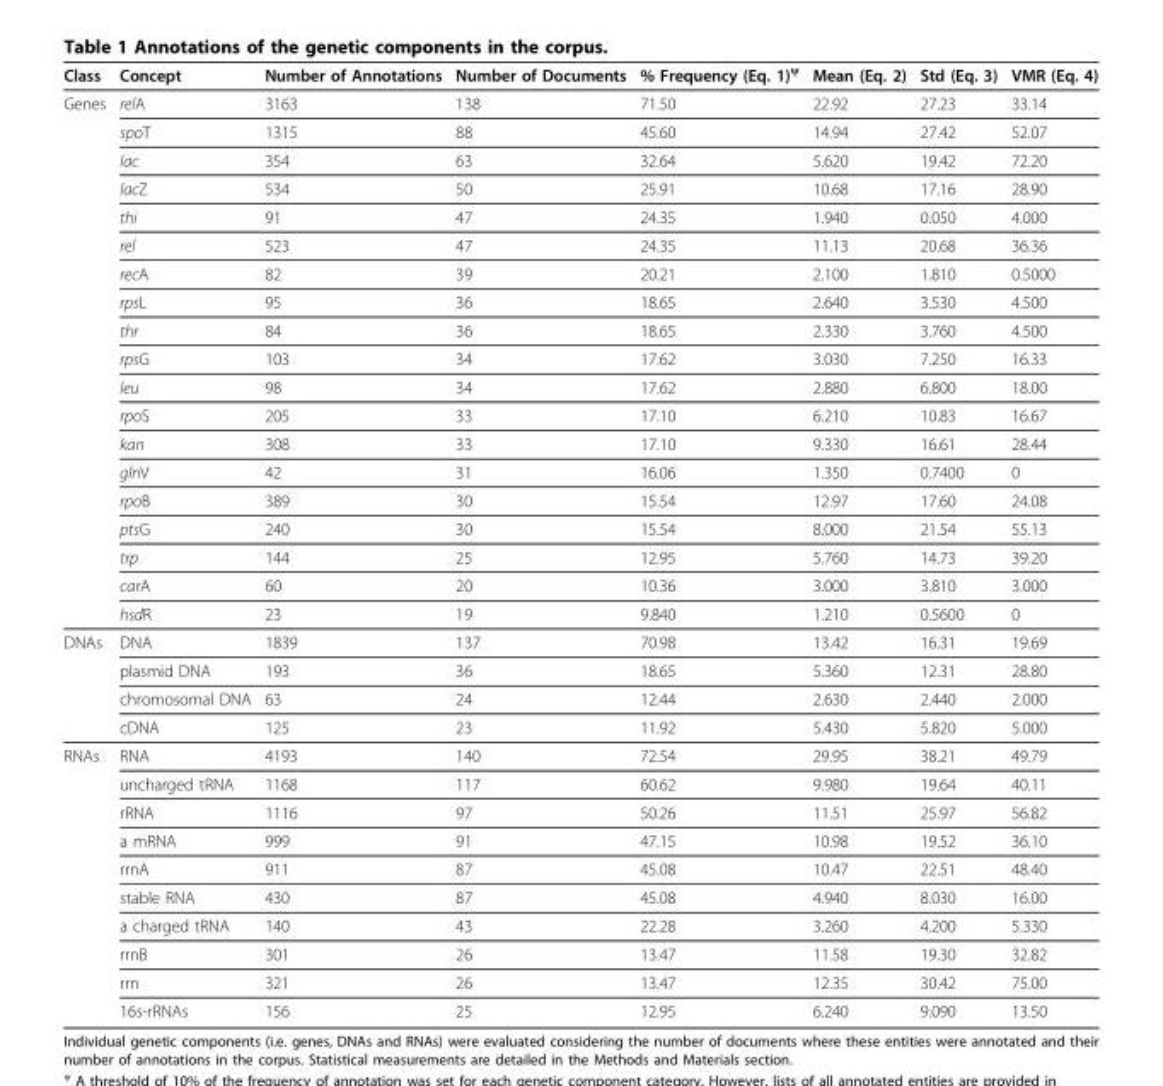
<table><thead><tr><td>Class</td><td>Concept</td><td>Number of Annotations</td><td>Number of Documents</td><td>% Frequency (Eq. 1)<sup>ψ</sup></td><td>Mean (Eq. 2)</td><td>Std (Eq. 3)</td><td>VMR (Eq. 4)</td></tr></thead><tbody><tr><td rowspan="19">Genes</td><td>relA</td><td>3163</td><td>138</td><td>71.50</td><td>22.92</td><td>27.23</td><td>33.14</td></tr><tr><td>spoT</td><td>1315</td><td>88</td><td>45.60</td><td>14.94</td><td>27.42</td><td>52.07</td></tr><tr><td>lac</td><td>354</td><td>63</td><td>32.64</td><td>5.620</td><td>19.42</td><td>72.20</td></tr><tr><td>lacZ</td><td>534</td><td>50</td><td>25.91</td><td>10.68</td><td>17.16</td><td>28.90</td></tr><tr><td>thi</td><td>91</td><td>47</td><td>24.35</td><td>1.940</td><td>0.050</td><td>4.000</td></tr><tr><td>rel</td><td>523</td><td>47</td><td>24.35</td><td>11.13</td><td>20.68</td><td>36.36</td></tr><tr><td>recA</td><td>82</td><td>39</td><td>20.21</td><td>2.100</td><td>1.810</td><td>0.5000</td></tr><tr><td>rpsL</td><td>95</td><td>36</td><td>18.65</td><td>2.640</td><td>3.530</td><td>4.500</td></tr><tr><td>thr</td><td>84</td><td>36</td><td>18.65</td><td>2.330</td><td>3.760</td><td>4.500</td></tr><tr><td>rpsG</td><td>103</td><td>34</td><td>17.62</td><td>3.030</td><td>7.250</td><td>16.33</td></tr><tr><td>leu</td><td>98</td><td>34</td><td>17.62</td><td>2.880</td><td>6.800</td><td>18.00</td></tr><tr><td>rpoS</td><td>205</td><td>33</td><td>17.10</td><td>6.210</td><td>10.83</td><td>16.67</td></tr><tr><td>kan</td><td>308</td><td>33</td><td>17.10</td><td>9.330</td><td>16.61</td><td>28.44</td></tr><tr><td>glnV</td><td>42</td><td>31</td><td>16.06</td><td>1.350</td><td>0.7400</td><td>0</td></tr><tr><td>rpoB</td><td>389</td><td>30</td><td>15.54</td><td>12.97</td><td>17.60</td><td>24.08</td></tr><tr><td>ptsG</td><td>240</td><td>30</td><td>15.54</td><td>8.000</td><td>21.54</td><td>55.13</td></tr><tr><td>trp</td><td>144</td><td>25</td><td>12.95</td><td>5.760</td><td>14.73</td><td>39.20</td></tr><tr><td>carA</td><td>60</td><td>20</td><td>10.36</td><td>3.000</td><td>3.810</td><td>3.000</td></tr><tr><td>hsdR</td><td>23</td><td>19</td><td>9.840</td><td>1.210</td><td>0.5600</td><td>0</td></tr><tr><td rowspan="4">DNAs</td><td>DNA</td><td>1839</td><td>137</td><td>70.98</td><td>13.42</td><td>16.31</td><td>19.69</td></tr><tr><td>plasmid DNA</td><td>193</td><td>36</td><td>18.65</td><td>5.360</td><td>12.31</td><td>28.80</td></tr><tr><td>chromosomal DNA</td><td>63</td><td>24</td><td>12.44</td><td>2.630</td><td>2.440</td><td>2.000</td></tr><tr><td>cDNA</td><td>125</td><td>23</td><td>11.92</td><td>5.430</td><td>5.820</td><td>5.000</td></tr><tr><td rowspan="10">RNAs</td><td>RNA</td><td>4193</td><td>140</td><td>72.54</td><td>29.95</td><td>38.21</td><td>49.79</td></tr><tr><td>uncharged tRNA</td><td>1168</td><td>117</td><td>60.62</td><td>9.980</td><td>19.64</td><td>40.11</td></tr><tr><td>rRNA</td><td>1116</td><td>97</td><td>50.26</td><td>11.51</td><td>25.97</td><td>56.82</td></tr><tr><td>a mRNA</td><td>999</td><td>91</td><td>47.15</td><td>10.98</td><td>19.52</td><td>36.10</td></tr><tr><td>rrnA</td><td>911</td><td>87</td><td>45.08</td><td>10.47</td><td>22.51</td><td>48.40</td></tr><tr><td>stable RNA</td><td>430</td><td>87</td><td>45.08</td><td>4.940</td><td>8.030</td><td>16.00</td></tr><tr><td>a charged tRNA</td><td>140</td><td>43</td><td>22.28</td><td>3.260</td><td>4.200</td><td>5.330</td></tr><tr><td>rrnB</td><td>301</td><td>26</td><td>13.47</td><td>11.58</td><td>19.30</td><td>32.82</td></tr><tr><td>rrn</td><td>321</td><td>26</td><td>13.47</td><td>12.35</td><td>30.42</td><td>75.00</td></tr><tr><td>16s-rRNAs</td><td>156</td><td>25</td><td>12.95</td><td>6.240</td><td>9.090</td><td>13.50</td></tr></tbody></table>